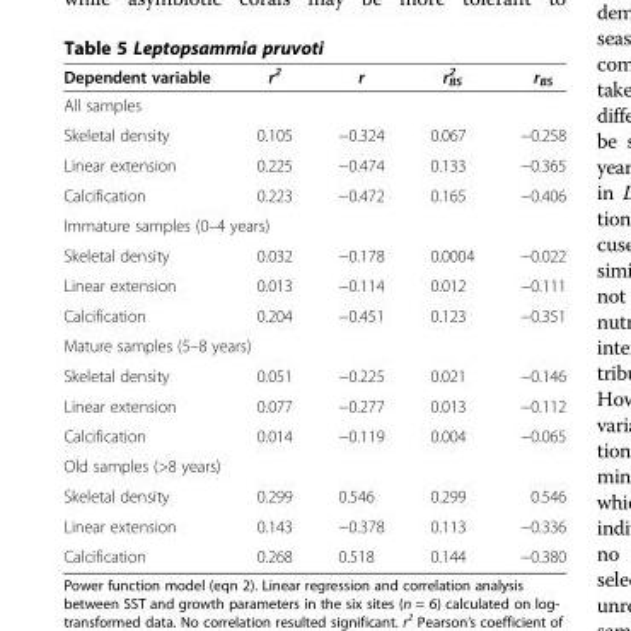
<table><thead><tr><td>Dependent variable</td><td>r<sup>2</sup></td><td>r</td><td>r<sup>2</sup> <sub>BS</sub></td><td>r<sub>BS</sub></td></tr></thead><tbody><tr><td colspan="5">All samples</td></tr><tr><td>Skeletal density</td><td>0.105</td><td>−0.324</td><td>0.067</td><td>−0.258</td></tr><tr><td>Linear extension</td><td>0.225</td><td>−0.474</td><td>0.133</td><td>−0.365</td></tr><tr><td>Calcification</td><td>0.223</td><td>−0.472</td><td>0.165</td><td>−0.406</td></tr><tr><td colspan="5">Immature samples (0–4 years)</td></tr><tr><td>Skeletal density</td><td>0.032</td><td>−0.178</td><td>0.0004</td><td>−0.022</td></tr><tr><td>Linear extension</td><td>0.013</td><td>−0.114</td><td>0.012</td><td>−0.111</td></tr><tr><td>Calcification</td><td>0.204</td><td>−0.451</td><td>0.123</td><td>−0.351</td></tr><tr><td colspan="5">Mature samples (5–8 years)</td></tr><tr><td>Skeletal density</td><td>0.051</td><td>−0.225</td><td>0.021</td><td>−0.146</td></tr><tr><td>Linear extension</td><td>0.077</td><td>−0.277</td><td>0.013</td><td>−0.112</td></tr><tr><td>Calcification</td><td>0.014</td><td>−0.119</td><td>0.004</td><td>−0.065</td></tr><tr><td colspan="5">Old samples (&gt;8 years)</td></tr><tr><td>Skeletal density</td><td>0.299</td><td>0.546</td><td>0.299</td><td>0.546</td></tr><tr><td>Linear extension</td><td>0.143</td><td>−0.378</td><td>0.113</td><td>−0.336</td></tr><tr><td>Calcification</td><td>0.268</td><td>0.518</td><td>0.144</td><td>−0.380</td></tr></tbody></table>